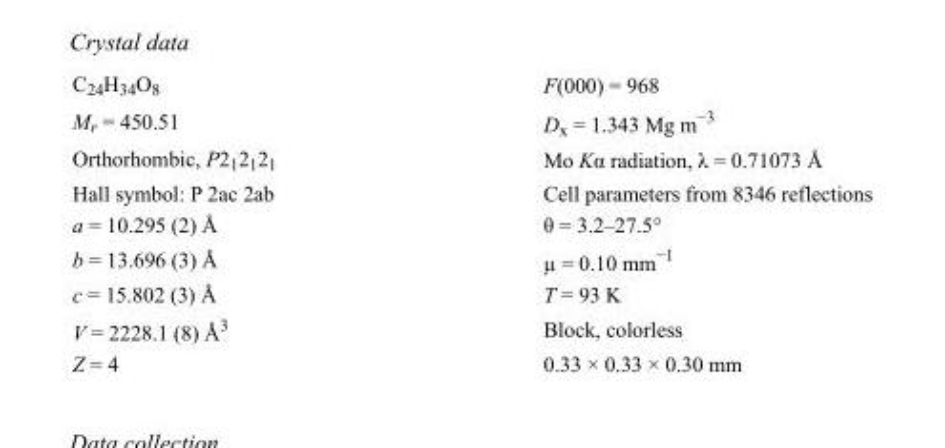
<table><tbody><tr><td>C<sub>24</sub>H<sub>34</sub>O<sub>8</sub></td><td>F(000) = 968</td></tr><tr><td>M<sub>r</sub> = 450.51</td><td>D<sub>x</sub> = 1.343 Mg m<sup>−3</sup></td></tr><tr><td>Orthorhombic, P2<sub>1</sub>2<sub>1</sub>2<sub>1</sub></td><td>Mo Kα radiation, λ = 0.71073 Å</td></tr><tr><td>Hall symbol: P 2ac 2ab</td><td>Cell parameters from 8346 reflections</td></tr><tr><td>a = 10.295 (2) Å</td><td>θ = 3.2–27.5°</td></tr><tr><td>b = 13.696 (3) Å</td><td>µ = 0.10 mm<sup>−1</sup></td></tr><tr><td>c = 15.802 (3) Å</td><td>T = 93 K</td></tr><tr><td>V = 2228.1 (8) Å<sup>3</sup></td><td>Block, colorless</td></tr><tr><td>Z = 4</td><td>0.33 × 0.33 × 0.30 mm</td></tr></tbody></table>